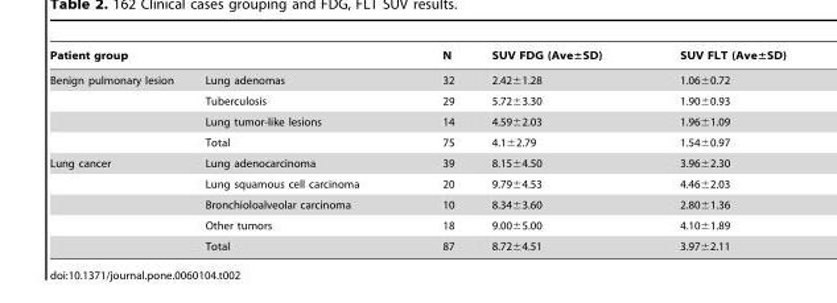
<table><thead><tr><td colspan="2">Patient group</td><td rowspan="2">N 32</td><td rowspan="2">SUV FDG (Ave±SD) 2.42±1.28</td><td rowspan="2">SUV FLT (Ave±SD) 1.06±0.72</td></tr><tr><td>Benign pulmonary lesion</td><td>Lung adenomas</td></tr></thead><tbody><tr><td></td><td>Tuberculosis</td><td>29</td><td>5.72±3.30</td><td>1.90±0.93</td></tr><tr><td></td><td>Lung tumor-like lesions</td><td>14</td><td>4.59±2.03</td><td>1.96±1.09</td></tr><tr><td></td><td>Total</td><td>75</td><td>4.1±2.79</td><td>1.54±0.97</td></tr><tr><td rowspan="5">Lung cancer</td><td>Lung adenocarcinoma</td><td>39</td><td>8.15±4.50</td><td>3.96±2.30</td></tr><tr><td>Lung squamous cell carcinoma</td><td>20</td><td>9.79±4.53</td><td>4.46±2.03</td></tr><tr><td>Bronchioloalveolar carcinoma</td><td>10</td><td>8.34±3.60</td><td>2.80±1.36</td></tr><tr><td>Other tumors</td><td>18</td><td>9.00±5.00</td><td>4.10±1.89</td></tr><tr><td>Total</td><td>87</td><td>8.72±4.51</td><td>3.97±2.11</td></tr></tbody></table>